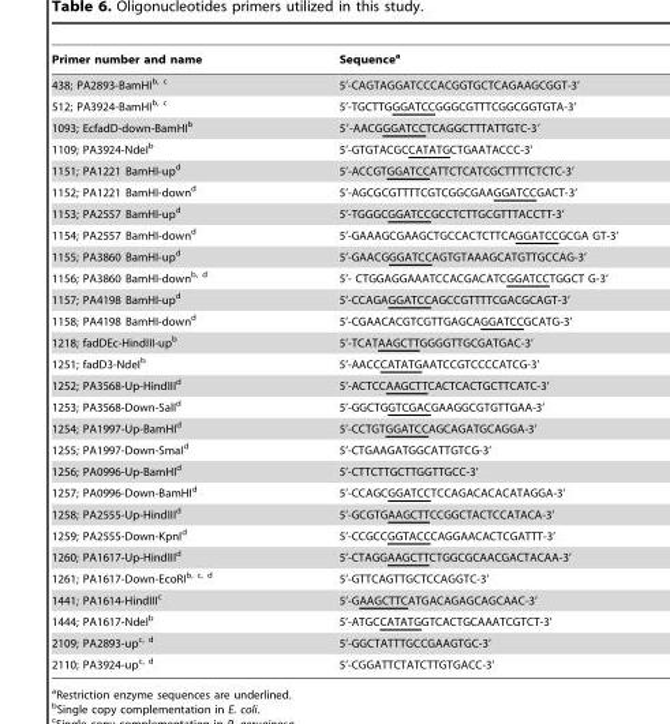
<table><thead><tr><td>Primer number and name</td><td>Sequence<sup>a</sup></td></tr></thead><tbody><tr><td>438; PA2893-BamHIb, c</td><td>5’-CAGTAGGATCCCACGGTGCTCAGAAGCGGT-3’</td></tr><tr><td>512; PA3924-BamHIb, c</td><td>5’-TGCTTGGGATCCGGGCGTTTCGGCGGTGTA-3’</td></tr><tr><td>1093; EcfadD-down-BamHI<sup>b</sup></td><td>5′-AACGGGATCCTCAGGCTTTATTGTC-3′</td></tr><tr><td>1109; PA3924-NdeI<sup>b</sup></td><td>5’-GTGTACGCCATATGCTGAATACCC-3’</td></tr><tr><td>1151; PA1221 BamHI-up<sup>d</sup></td><td>5’-ACCGTGGATCCATTCTCATCGCTTTTCTCTC-3’</td></tr><tr><td>1152; PA1221 BamHI-down<sup>d</sup></td><td>5’-AGCGCGTTTTCGTCGGCGAAGGATCCGACT-3’</td></tr><tr><td>1153; PA2557 BamHI-up<sup>d</sup></td><td>5’-TGGGCGGATCCGCCTCTTGCGTTTACCTT-3’</td></tr><tr><td>1154; PA2557 BamHI-down<sup>d</sup></td><td>5’-GAAAGCGAAGCTGCCACTCTTCAGGATCCGCGA GT-3’</td></tr><tr><td>1155; PA3860 BamHI-up<sup>d</sup></td><td>5’-GAACGGGATCCAGTGTAAAGCATGTTGCCAG-3’</td></tr><tr><td>1156; PA3860 BamHI-downb, d</td><td>5’- CTGGAGGAAATCCACGACATCGGATCCTGGCT G-3’</td></tr><tr><td>1157; PA4198 BamHI-up<sup>d</sup></td><td>5’-CCAGAGGATCCAGCCGTTTTCGACGCAGT-3’</td></tr><tr><td>1158; PA4198 BamHI-down<sup>d</sup></td><td>5’-CGAACACGTCGTTGAGCAGGATCCGCATG-3’</td></tr><tr><td>1218; fadDEc-HindIII-up<sup>b</sup></td><td>5’-TCATAAGCTTGGGGTTGCGATGAC-3’</td></tr><tr><td>1251; fadD3-NdeI<sup>b</sup></td><td>5’-AACCCATATGAATCCGTCCCCATCG-3’</td></tr><tr><td>1252; PA3568-Up-HindIII<sup>d</sup></td><td>5’-ACTCCAAGCTTCACTCACTGCTTCATC-3’</td></tr><tr><td>1253; PA3568-Down-SalI<sup>d</sup></td><td>5’-GGCTGGTCGACGAAGGCGTGTTGAA-3’</td></tr><tr><td>1254; PA1997-Up-BamHI<sup>d</sup></td><td>5’-CCTGTGGATCCAGCAGATGCAGGA-3’</td></tr><tr><td>1255; PA1997-Down-SmaI<sup>d</sup></td><td>5’-CTGAAGATGGCATTGTCG-3’</td></tr><tr><td>1256; PA0996-Up-BamHI<sup>d</sup></td><td>5’-CTTCTTGCTTGGTTGCC-3’</td></tr><tr><td>1257; PA0996-Down-BamHI<sup>d</sup></td><td>5’-CCAGCGGATCCTCCAGACACACATAGGA-3’</td></tr><tr><td>1258; PA2555-Up-HindIII<sup>d</sup></td><td>5’-GCGTGAAGCTTCCGGCTACTCCATACA-3’</td></tr><tr><td>1259; PA2555-Down-KpnI<sup>d</sup></td><td>5’-CCGCCGGTACCCAGGAACACTCGATTT-3’</td></tr><tr><td>1260; PA1617-Up-HindIII<sup>d</sup></td><td>5’-CTAGGAAGCTTCTGGCGCAACGACTACAA-3’</td></tr><tr><td>1261; PA1617-Down-EcoRIb, c, d</td><td>5’-GTTCAGTTGCTCCAGGTC-3’</td></tr><tr><td>1441; PA1614-HindIII<sup>c</sup></td><td>5’-GAAGCTTCATGACAGAGCAGCAAC-3’</td></tr><tr><td>1444; PA1617-NdeI<sup>b</sup></td><td>5’-ATGCCATATGGTCACTGCAAATCGTCT-3’</td></tr><tr><td>2109; PA2893-upc, d</td><td>5’-GGCTATTTGCCGAAGTGC-3’</td></tr><tr><td>2110; PA3924-upc, d</td><td>5’-CGGATTCTATCTTGTGACC-3’</td></tr></tbody></table>